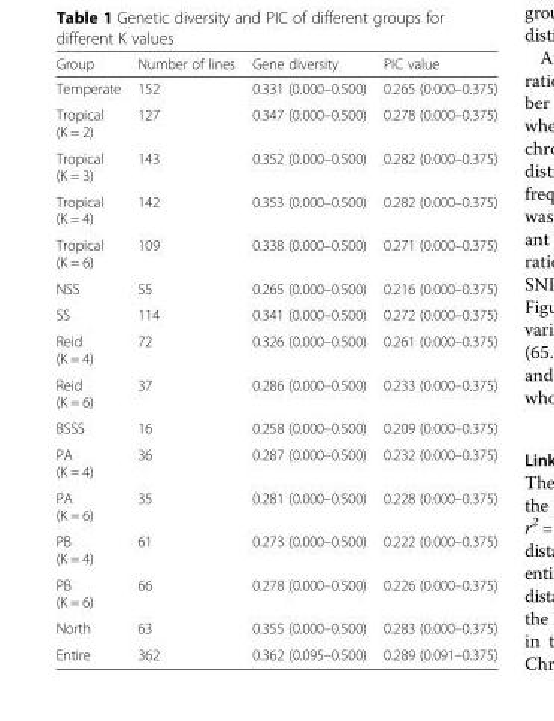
<table><thead><tr><td>Group</td><td>Number of lines</td><td>Gene diversity</td><td>PIC value</td></tr></thead><tbody><tr><td>Temperate</td><td>152</td><td>0.331 (0.000–0.500)</td><td>0.265 (0.000–0.375)</td></tr><tr><td>Tropical (K = 2)</td><td>127</td><td>0.347 (0.000–0.500)</td><td>0.278 (0.000–0.375)</td></tr><tr><td>Tropical (K = 3)</td><td>143</td><td>0.352 (0.000–0.500)</td><td>0.282 (0.000–0.375)</td></tr><tr><td>Tropical (K = 4)</td><td>142</td><td>0.353 (0.000–0.500)</td><td>0.282 (0.000–0.375)</td></tr><tr><td>Tropical (K = 6)</td><td>109</td><td>0.338 (0.000–0.500)</td><td>0.271 (0.000–0.375)</td></tr><tr><td>NSS</td><td>55</td><td>0.265 (0.000–0.500)</td><td>0.216 (0.000–0.375)</td></tr><tr><td>SS</td><td>114</td><td>0.341 (0.000–0.500)</td><td>0.272 (0.000–0.375)</td></tr><tr><td>Reid (K = 4)</td><td>72</td><td>0.326 (0.000–0.500)</td><td>0.261 (0.000–0.375)</td></tr><tr><td>Reid (K = 6)</td><td>37</td><td>0.286 (0.000–0.500)</td><td>0.233 (0.000–0.375)</td></tr><tr><td>BSSS</td><td>16</td><td>0.258 (0.000–0.500)</td><td>0.209 (0.000–0.375)</td></tr><tr><td>PA (K = 4)</td><td>36</td><td>0.287 (0.000–0.500)</td><td>0.232 (0.000–0.375)</td></tr><tr><td>PA (K = 6)</td><td>35</td><td>0.281 (0.000–0.500)</td><td>0.228 (0.000–0.375)</td></tr><tr><td>PB (K = 4)</td><td>61</td><td>0.273 (0.000–0.500)</td><td>0.222 (0.000–0.375)</td></tr><tr><td>PB (K = 6)</td><td>66</td><td>0.278 (0.000–0.500)</td><td>0.226 (0.000–0.375)</td></tr><tr><td>North</td><td>63</td><td>0.355 (0.000–0.500)</td><td>0.283 (0.000–0.375)</td></tr><tr><td>Entire</td><td>362</td><td>0.362 (0.095–0.500)</td><td>0.289 (0.091–0.375)</td></tr></tbody></table>